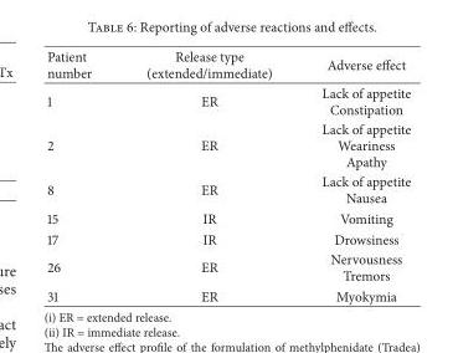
<table><thead><tr><td>Patient number</td><td>Release type (extended/immediate)</td><td>Adverse effect</td></tr></thead><tbody><tr><td>1</td><td>ER</td><td>Lack of appetite Constipation</td></tr><tr><td>2</td><td>ER</td><td>Lack of appetite Weariness Apathy</td></tr><tr><td>8</td><td>ER</td><td>Lack of appetite Nausea</td></tr><tr><td>15</td><td>IR</td><td>Vomiting</td></tr><tr><td>17</td><td>IR</td><td>Drowsiness</td></tr><tr><td>26</td><td>ER</td><td>Nervousness Tremors</td></tr><tr><td>31</td><td>ER</td><td>Myokymia</td></tr></tbody></table>